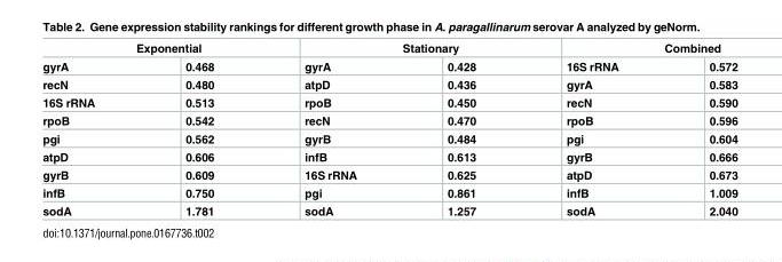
<table><thead><tr><td colspan="2">Exponential</td><td colspan="2">Stationary</td><td colspan="2">Combined</td></tr><tr><td>gyrA</td><td>0.468</td><td>gyrA</td><td>0.428</td><td>16S rRNA</td><td>0.572</td></tr></thead><tbody><tr><td>recN</td><td>0.480</td><td>atpD</td><td>0.436</td><td>gyrA</td><td>0.583</td></tr><tr><td>16S rRNA</td><td>0.513</td><td>rpoB</td><td>0.450</td><td>recN</td><td>0.590</td></tr><tr><td>rpoB</td><td>0.542</td><td>recN</td><td>0.470</td><td>rpoB</td><td>0.596</td></tr><tr><td>pgi</td><td>0.562</td><td>gyrB</td><td>0.484</td><td>pgi</td><td>0.604</td></tr><tr><td>atpD</td><td>0.606</td><td>infB</td><td>0.613</td><td>gyrB</td><td>0.666</td></tr><tr><td>gyrB</td><td>0.609</td><td>16S rRNA</td><td>0.625</td><td>atpD</td><td>0.673</td></tr><tr><td>infB</td><td>0.750</td><td>pgi</td><td>0.861</td><td>infB</td><td>1.009</td></tr><tr><td>sodA</td><td>1.781</td><td>sodA</td><td>1.257</td><td>sodA</td><td>2.040</td></tr></tbody></table>